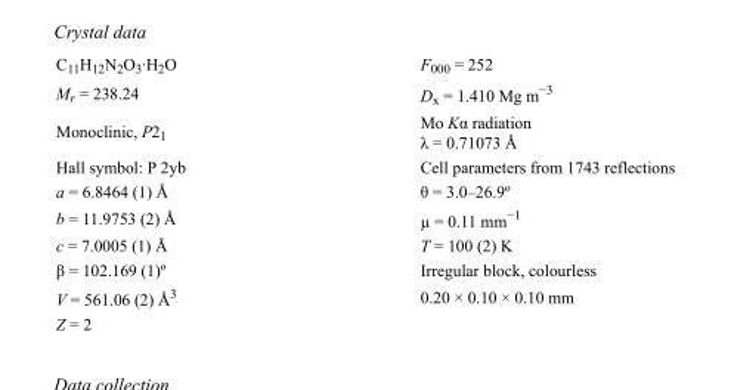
<table><tbody><tr><td>C<sub>11</sub>H<sub>12</sub>N<sub>2</sub>O<sub>3</sub>·H<sub>2</sub>O</td><td>F000 = 252</td></tr><tr><td>M<sub>r</sub> = 238.24</td><td>D<sub>x</sub> = 1.410 Mg m<sup>−3</sup></td></tr><tr><td>Monoclinic, P2<sub>1</sub></td><td>Mo Kα radiation λ = 0.71073 Å</td></tr><tr><td>Hall symbol: P 2yb</td><td>Cell parameters from 1743 reflections</td></tr><tr><td>a = 6.8464 (1) Å</td><td>θ = 3.0–26.9º</td></tr><tr><td>b = 11.9753 (2) Å</td><td>µ = 0.11 mm<sup>−1</sup></td></tr><tr><td>c = 7.0005 (1) Å</td><td>T = 100 (2) K</td></tr><tr><td>β = 102.169 (1)º</td><td>Irregular block, colourless</td></tr><tr><td>V = 561.06 (2) Å<sup>3</sup></td><td>0.20 × 0.10 × 0.10 mm</td></tr><tr><td>Z = 2</td><td></td></tr></tbody></table>